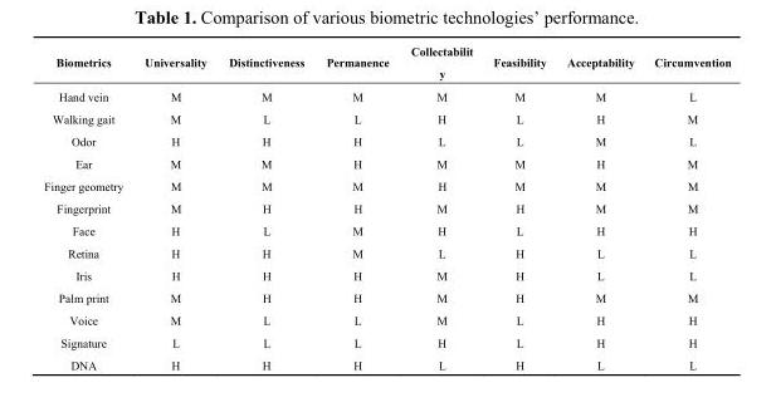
<table><thead><tr><td>Biometrics</td><td>Universality</td><td>Distinctiveness</td><td>Permanence</td><td>Collectabilit y</td><td>Feasibility</td><td>Acceptability</td><td>Circumvention</td></tr></thead><tbody><tr><td>Hand vein</td><td>M</td><td>M</td><td>M</td><td>M</td><td>M</td><td>M</td><td>L</td></tr><tr><td>Walking gait</td><td>M</td><td>L</td><td>L</td><td>H</td><td>L</td><td>H</td><td>M</td></tr><tr><td>Odor</td><td>H</td><td>H</td><td>H</td><td>L</td><td>L</td><td>M</td><td>L</td></tr><tr><td>Ear</td><td>M</td><td>M</td><td>H</td><td>M</td><td>M</td><td>H</td><td>M</td></tr><tr><td>Finger geometry</td><td>M</td><td>M</td><td>M</td><td>H</td><td>M</td><td>M</td><td>M</td></tr><tr><td>Fingerprint</td><td>M</td><td>H</td><td>H</td><td>M</td><td>H</td><td>M</td><td>M</td></tr><tr><td>Face</td><td>H</td><td>L</td><td>M</td><td>H</td><td>L</td><td>H</td><td>H</td></tr><tr><td>Retina</td><td>H</td><td>H</td><td>M</td><td>L</td><td>H</td><td>L</td><td>L</td></tr><tr><td>Iris</td><td>H</td><td>H</td><td>H</td><td>M</td><td>H</td><td>L</td><td>L</td></tr><tr><td>Palm print</td><td>M</td><td>H</td><td>H</td><td>M</td><td>H</td><td>M</td><td>M</td></tr><tr><td>Voice</td><td>M</td><td>L</td><td>L</td><td>M</td><td>L</td><td>H</td><td>H</td></tr><tr><td>Signature</td><td>L</td><td>L</td><td>L</td><td>H</td><td>L</td><td>H</td><td>H</td></tr><tr><td>DNA</td><td>H</td><td>H</td><td>H</td><td>L</td><td>H</td><td>L</td><td>L</td></tr></tbody></table>